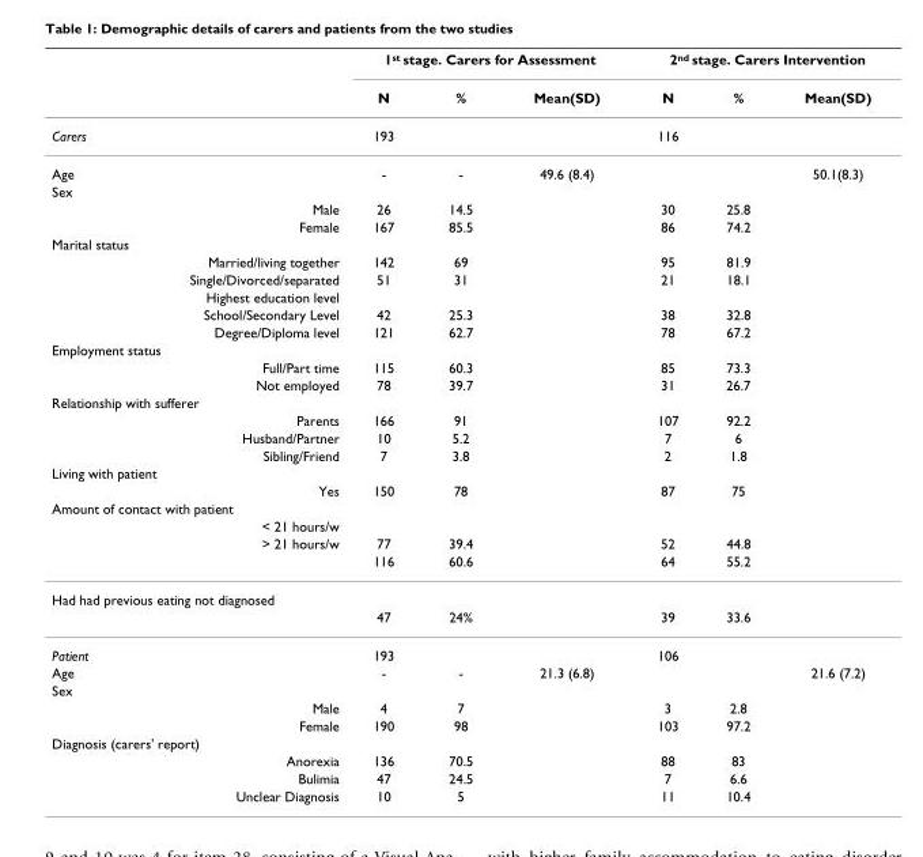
<table><thead><tr><td rowspan="2"></td><td colspan="3">1<sup>st</sup> stage. Carers for Assessment</td><td colspan="3">2<sup>nd</sup> stage. Carers Intervention</td></tr><tr><td>N</td><td>%</td><td>Mean(SD)</td><td>N</td><td>%</td><td>Mean(SD)</td></tr></thead><tbody><tr><td>Carers</td><td>193</td><td></td><td></td><td>116</td><td></td><td></td></tr><tr><td>Age</td><td>-</td><td>-</td><td>49.6 (8.4)</td><td></td><td></td><td>50.1(8.3)</td></tr><tr><td colspan="7">Sex</td></tr><tr><td>Male</td><td>26</td><td>14.5</td><td></td><td>30</td><td>25.8</td><td></td></tr><tr><td>Female</td><td>167</td><td>85.5</td><td></td><td>86</td><td>74.2</td><td></td></tr><tr><td colspan="7">Marital status</td></tr><tr><td>Married/living together</td><td>142</td><td>69</td><td></td><td>95</td><td>81.9</td><td></td></tr><tr><td>Single/Divorced/separated</td><td>51</td><td>31</td><td></td><td>21</td><td>18.1</td><td></td></tr><tr><td colspan="7">Highest education level</td></tr><tr><td>School/Secondary Level</td><td>42</td><td>25.3</td><td></td><td>38</td><td>32.8</td><td></td></tr><tr><td>Degree/Diploma level</td><td>121</td><td>62.7</td><td></td><td>78</td><td>67.2</td><td></td></tr><tr><td colspan="7">Employment status</td></tr><tr><td>Full/Part time</td><td>115</td><td>60.3</td><td></td><td>85</td><td>73.3</td><td></td></tr><tr><td>Not employed</td><td>78</td><td>39.7</td><td></td><td>31</td><td>26.7</td><td></td></tr><tr><td colspan="7">Relationship with sufferer</td></tr><tr><td>Parents</td><td>166</td><td>91</td><td></td><td>107</td><td>92.2</td><td></td></tr><tr><td>Husband/Partner</td><td>10</td><td>5.2</td><td></td><td>7</td><td>6</td><td></td></tr><tr><td>Sibling/Friend</td><td>7</td><td>3.8</td><td></td><td>2</td><td>1.8</td><td></td></tr><tr><td colspan="7">Living with patient</td></tr><tr><td>Yes</td><td>150</td><td>78</td><td></td><td>87</td><td>75</td><td></td></tr><tr><td colspan="7">Amount of contact with patient</td></tr><tr><td colspan="7">&lt; 21 hours/w</td></tr><tr><td rowspan="2">&gt; 21 hours/w</td><td>77</td><td>39.4</td><td></td><td>52</td><td>44.8</td><td></td></tr><tr><td>116</td><td>60.6</td><td></td><td>64</td><td>55.2</td><td></td></tr><tr><td colspan="7">Had had previous eating not diagnosed</td></tr><tr><td></td><td>47</td><td>24%</td><td></td><td>39</td><td>33.6</td><td></td></tr><tr><td>Patient</td><td>193</td><td></td><td></td><td>106</td><td></td><td></td></tr><tr><td>Age</td><td>-</td><td>-</td><td>21.3 (6.8)</td><td></td><td></td><td>21.6 (7.2)</td></tr><tr><td colspan="7">Sex</td></tr><tr><td>Male</td><td>4</td><td>7</td><td></td><td>3</td><td>2.8</td><td></td></tr><tr><td>Female</td><td>190</td><td>98</td><td></td><td>103</td><td>97.2</td><td></td></tr><tr><td colspan="7">Diagnosis (carers&#x27; report)</td></tr><tr><td>Anorexia</td><td>136</td><td>70.5</td><td></td><td>88</td><td>83</td><td></td></tr><tr><td>Bulimia</td><td>47</td><td>24.5</td><td></td><td>7</td><td>6.6</td><td></td></tr><tr><td>Unclear Diagnosis</td><td>10</td><td>5</td><td></td><td>11</td><td>10.4</td><td></td></tr></tbody></table>